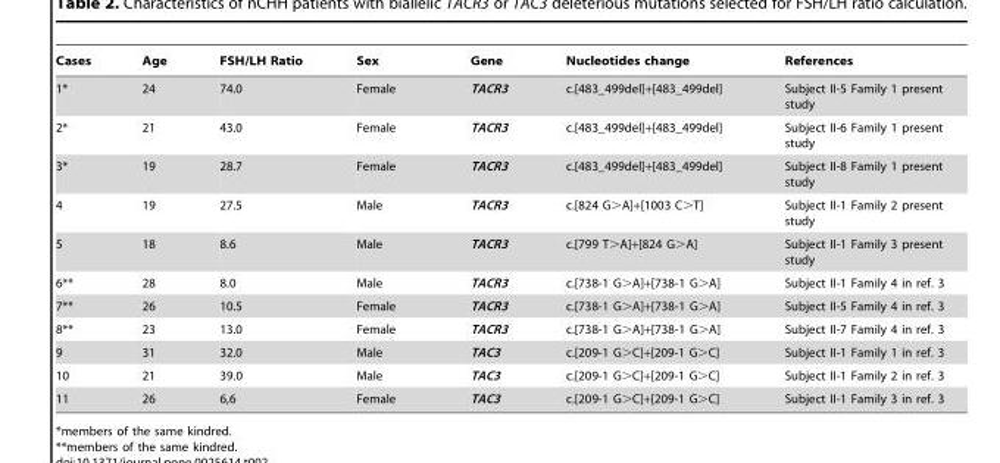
<table><thead><tr><td>Cases</td><td>Age</td><td>FSH/LH Ratio</td><td>Sex</td><td>Gene</td><td>Nucleotides change</td><td>References</td></tr></thead><tbody><tr><td>1*</td><td>24</td><td>74.0</td><td>Female</td><td>TACR3</td><td>c.[483_499del]+[483_499del]</td><td>Subject II-5 Family 1 present study</td></tr><tr><td>2*</td><td>21</td><td>43.0</td><td>Female</td><td>TACR3</td><td>c.[483_499del]+[483_499del]</td><td>Subject II-6 Family 1 present study</td></tr><tr><td>3*</td><td>19</td><td>28.7</td><td>Female</td><td>TACR3</td><td>c.[483_499del]+[483_499del]</td><td>Subject II-8 Family 1 present study</td></tr><tr><td>4</td><td>19</td><td>27.5</td><td>Male</td><td>TACR3</td><td>c.[824 G&gt;A]+[1003 C&gt;T]</td><td>Subject II-1 Family 2 present study</td></tr><tr><td>5</td><td>18</td><td>8.6</td><td>Male</td><td>TACR3</td><td>c.[799 T&gt;A]+[824 G&gt;A]</td><td>Subject II-1 Family 3 present study</td></tr><tr><td>6**</td><td>28</td><td>8.0</td><td>Male</td><td>TACR3</td><td>c.[738-1 G&gt;A]+[738-1 G&gt;A]</td><td>Subject II-1 Family 4 in ref. 3</td></tr><tr><td>7**</td><td>26</td><td>10.5</td><td>Female</td><td>TACR3</td><td>c.[738-1 G&gt;A]+[738-1 G&gt;A]</td><td>Subject II-5 Family 4 in ref. 3</td></tr><tr><td>8**</td><td>23</td><td>13.0</td><td>Female</td><td>TACR3</td><td>c.[738-1 G&gt;A]+[738-1 G&gt;A]</td><td>Subject II-7 Family 4 in ref. 3</td></tr><tr><td>9</td><td>31</td><td>32.0</td><td>Male</td><td>TAC3</td><td>c.[209-1 G&gt;C]+[209-1 G&gt;C]</td><td>Subject II-1 Family 1 in ref. 3</td></tr><tr><td>10</td><td>21</td><td>39.0</td><td>Male</td><td>TAC3</td><td>c.[209-1 G&gt;C]+[209-1 G&gt;C]</td><td>Subject II-1 Family 2 in ref. 3</td></tr><tr><td>11</td><td>26</td><td>6,6</td><td>Female</td><td>TAC3</td><td>c.[209-1 G&gt;C]+[209-1 G&gt;C]</td><td>Subject II-1 Family 3 in ref. 3</td></tr></tbody></table>